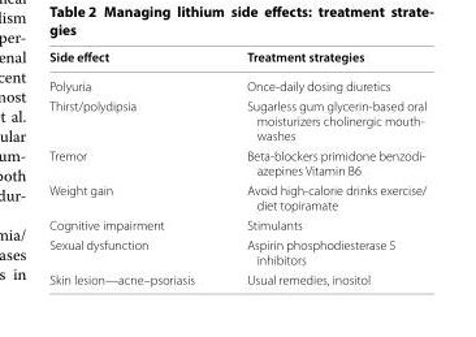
<table><thead><tr><td>Side effect</td><td>Treatment strategies</td></tr></thead><tbody><tr><td>Polyuria</td><td>Once-daily dosing diuretics</td></tr><tr><td>Thirst/polydipsia</td><td>Sugarless gum glycerin-based oral moisturizers cholinergic mouth- washes</td></tr><tr><td>Tremor</td><td>Beta-blockers primidone benzodi- azepines Vitamin B6</td></tr><tr><td>Weight gain</td><td>Avoid high-calorie drinks exercise/ diet topiramate</td></tr><tr><td>Cognitive impairment</td><td>Stimulants</td></tr><tr><td>Sexual dysfunction</td><td>Aspirin phosphodiesterase 5 inhibitors</td></tr><tr><td>Skin lesion—acne–psoriasis</td><td>Usual remedies, inositol</td></tr></tbody></table>